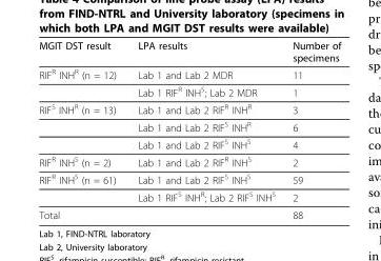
<table><thead><tr><td>MGIT DST result</td><td>LPA results</td><td>Number of specimens</td></tr></thead><tbody><tr><td rowspan="2">RIFR INHR (n = 12)</td><td>Lab 1 and Lab 2 MDR</td><td>11</td></tr><tr><td>Lab 1 RIFR INHS; Lab 2 MDR</td><td>1</td></tr><tr><td rowspan="3">RIFS INHR (n = 13)</td><td>Lab 1 and Lab 2 RIFR INHR</td><td>3</td></tr><tr><td>Lab 1 and Lab 2 RIFS INHR</td><td>6</td></tr><tr><td>Lab 1 and Lab 2 RIFS INHS</td><td>4</td></tr><tr><td>RIFR INHS (n = 2)</td><td>Lab 1 and Lab 2 RIFR INHS</td><td>2</td></tr><tr><td rowspan="2">RIFR INHS (n = 61)</td><td>Lab 1 and Lab 2 RIFS INHS</td><td>59</td></tr><tr><td>Lab 1 RIFS INHR; Lab 2 RIFS INHS</td><td>2</td></tr><tr><td>Total</td><td></td><td>88</td></tr></tbody></table>